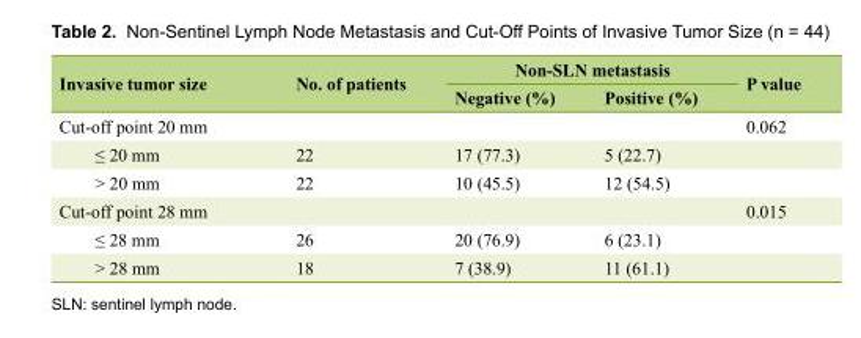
<table><thead><tr><td rowspan="2">Invasive tumor size</td><td rowspan="2">No. of patients</td><td colspan="2">Non-SLN metastasis</td><td rowspan="2">P value</td></tr><tr><td>Negative (%)</td><td>Positive (%)</td></tr></thead><tbody><tr><td>Cut-off point 20 mm</td><td></td><td></td><td></td><td>0.062</td></tr><tr><td>≤ 20 mm</td><td>22</td><td>17 (77.3)</td><td>5 (22.7)</td><td></td></tr><tr><td>&gt; 20 mm</td><td>22</td><td>10 (45.5)</td><td>12 (54.5)</td><td></td></tr><tr><td>Cut-off point 28 mm</td><td></td><td></td><td></td><td>0.015</td></tr><tr><td>≤ 28 mm</td><td>26</td><td>20 (76.9)</td><td>6 (23.1)</td><td></td></tr><tr><td>&gt; 28 mm</td><td>18</td><td>7 (38.9)</td><td>11 (61.1)</td><td></td></tr></tbody></table>